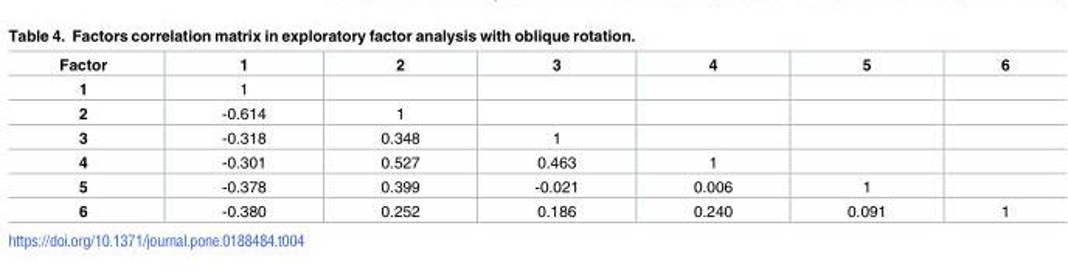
<table><thead><tr><td>Factor</td><td>1</td><td>2</td><td>3</td><td>4</td><td>5</td><td>6</td></tr></thead><tbody><tr><td>1</td><td>1</td><td></td><td></td><td></td><td></td><td></td></tr><tr><td>2</td><td>-0.614</td><td>1</td><td></td><td></td><td></td><td></td></tr><tr><td>3</td><td>-0.318</td><td>0.348</td><td>1</td><td></td><td></td><td></td></tr><tr><td>4</td><td>-0.301</td><td>0.527</td><td>0.463</td><td>1</td><td></td><td></td></tr><tr><td>5</td><td>-0.378</td><td>0.399</td><td>-0.021</td><td>0.006</td><td>1</td><td></td></tr><tr><td>6</td><td>-0.380</td><td>0.252</td><td>0.186</td><td>0.240</td><td>0.091</td><td>1</td></tr></tbody></table>